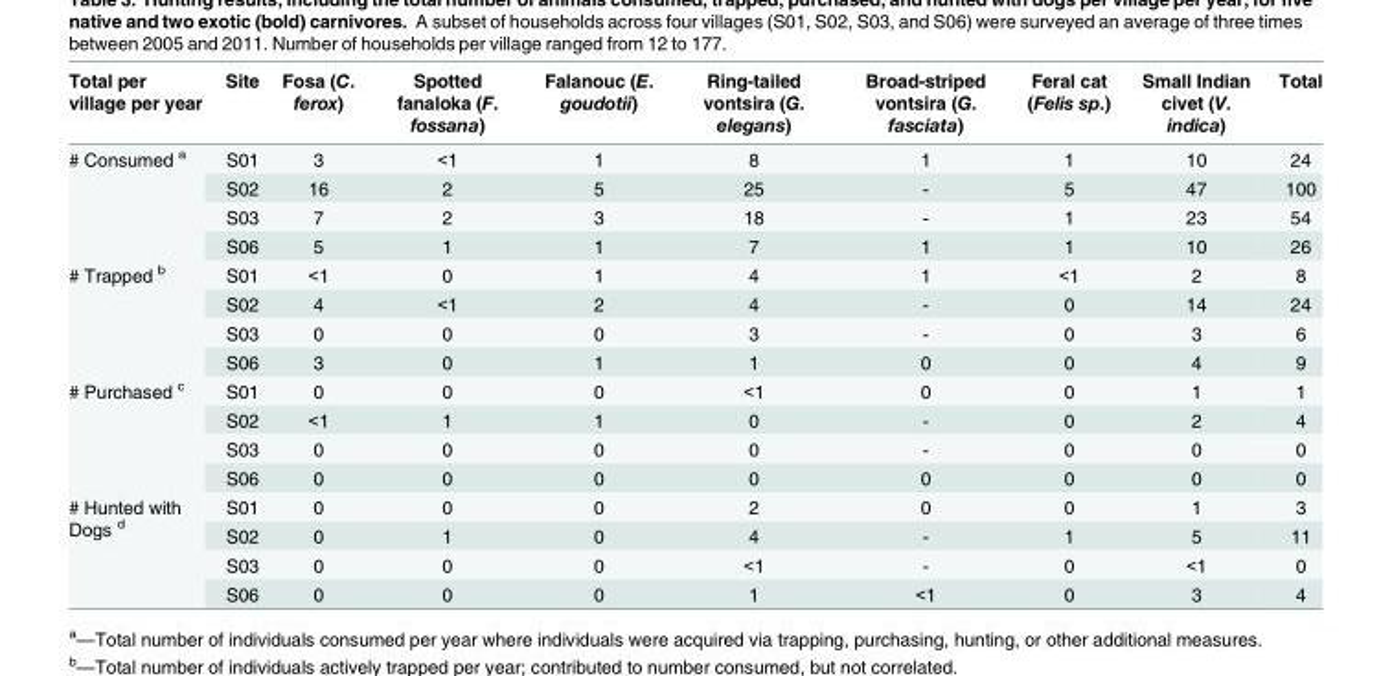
<table><thead><tr><td>Total per village per year</td><td>Site</td><td>Fosa (C. ferox)</td><td>Spotted fanaloka (F. fossana)</td><td>Falanouc (E. goudotii)</td><td>Ring-tailed vontsira (G. elegans)</td><td>Broad-striped vontsira (G. fasciata)</td><td>Feral cat (Felis sp.)</td><td>Small Indian civet (V. indica)</td><td>Total</td></tr></thead><tbody><tr><td rowspan="4"># Consumed <sup>a</sup></td><td>S01</td><td>3</td><td>&lt;1</td><td>1</td><td>8</td><td>1</td><td>1</td><td>10</td><td>24</td></tr><tr><td>S02</td><td>16</td><td>2</td><td>5</td><td>25</td><td>-</td><td>5</td><td>47</td><td>100</td></tr><tr><td>S03</td><td>7</td><td>2</td><td>3</td><td>18</td><td>-</td><td>1</td><td>23</td><td>54</td></tr><tr><td>S06</td><td>5</td><td>1</td><td>1</td><td>7</td><td>1</td><td>1</td><td>10</td><td>26</td></tr><tr><td rowspan="4"># Trapped <sup>b</sup></td><td>S01</td><td>&lt;1</td><td>0</td><td>1</td><td>4</td><td>1</td><td>&lt;1</td><td>2</td><td>8</td></tr><tr><td>S02</td><td>4</td><td>&lt;1</td><td>2</td><td>4</td><td>-</td><td>0</td><td>14</td><td>24</td></tr><tr><td>S03</td><td>0</td><td>0</td><td>0</td><td>3</td><td>-</td><td>0</td><td>3</td><td>6</td></tr><tr><td>S06</td><td>3</td><td>0</td><td>1</td><td>1</td><td>0</td><td>0</td><td>4</td><td>9</td></tr><tr><td rowspan="4"># Purchased <sup>c</sup></td><td>S01</td><td>0</td><td>0</td><td>0</td><td>&lt;1</td><td>0</td><td>0</td><td>1</td><td>1</td></tr><tr><td>S02</td><td>&lt;1</td><td>1</td><td>1</td><td>0</td><td>-</td><td>0</td><td>2</td><td>4</td></tr><tr><td>S03</td><td>0</td><td>0</td><td>0</td><td>0</td><td>-</td><td>0</td><td>0</td><td>0</td></tr><tr><td>S06</td><td>0</td><td>0</td><td>0</td><td>0</td><td>0</td><td>0</td><td>0</td><td>0</td></tr><tr><td rowspan="4"># Hunted with Dogs <sup>d</sup></td><td>S01</td><td>0</td><td>0</td><td>0</td><td>2</td><td>0</td><td>0</td><td>1</td><td>3</td></tr><tr><td>S02</td><td>0</td><td>1</td><td>0</td><td>4</td><td>-</td><td>1</td><td>5</td><td>11</td></tr><tr><td>S03</td><td>0</td><td>0</td><td>0</td><td>&lt;1</td><td>-</td><td>0</td><td>&lt;1</td><td>0</td></tr><tr><td>S06</td><td>0</td><td>0</td><td>0</td><td>1</td><td>&lt;1</td><td>0</td><td>3</td><td>4</td></tr></tbody></table>